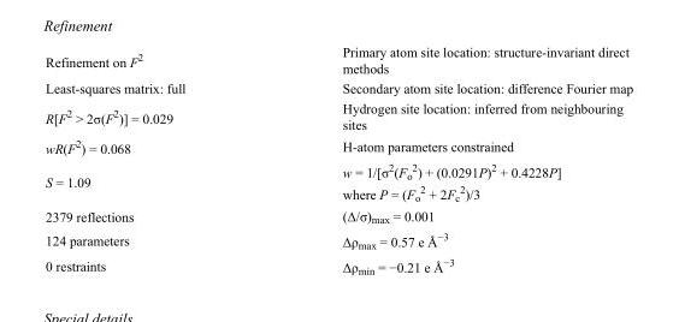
<table><tbody><tr><td>Refinement on F<sup>2</sup></td><td>Primary atom site location: structure-invariant direct methods</td></tr><tr><td>Least-squares matrix: full</td><td>Secondary atom site location: difference Fourier map</td></tr><tr><td>R[F<sup>2</sup> &gt; 2σ(F<sup>2</sup>)] = 0.029</td><td>Hydrogen site location: inferred from neighbouring sites</td></tr><tr><td>wR(F<sup>2</sup>) = 0.068</td><td>H-atom parameters constrained</td></tr><tr><td>S = 1.09</td><td>w = 1/[σ<sup>2</sup>(F<sub>o</sub> <sup>2</sup>) + (0.0291P)<sup>2</sup> + 0.4228P] where P = (F<sub>o</sub> <sup>2</sup> + 2F<sub>c</sub> <sup>2</sup>)/3</td></tr><tr><td>2379 reflections</td><td>(Δ/σ)<sub>max</sub> = 0.001</td></tr><tr><td>124 parameters</td><td>Δρ<sub>max</sub> = 0.57 e Å<sup>−3</sup></td></tr><tr><td>0 restraints</td><td>Δρ<sub>min</sub> = −0.21 e Å<sup>−3</sup></td></tr></tbody></table>